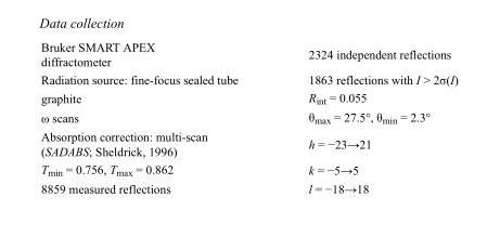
<table><tbody><tr><td>Bruker SMART APEX diffractometer</td><td>2324 independent reflections</td></tr><tr><td>Radiation source: fine-focus sealed tube</td><td>1863 reflections with I &gt; 2σ(I)</td></tr><tr><td>graphite</td><td>R<sub>int</sub> = 0.055</td></tr><tr><td>ω scans</td><td>θ<sub>max</sub> = 27.5°, θ<sub>min</sub> = 2.3°</td></tr><tr><td>Absorption correction: multi-scan (SADABS; Sheldrick, 1996)</td><td>h = −23→21</td></tr><tr><td>T<sub>min</sub> = 0.756, T<sub>max</sub> = 0.862</td><td>k = −5→5</td></tr><tr><td>8859 measured reflections</td><td>l = −18→18</td></tr></tbody></table>